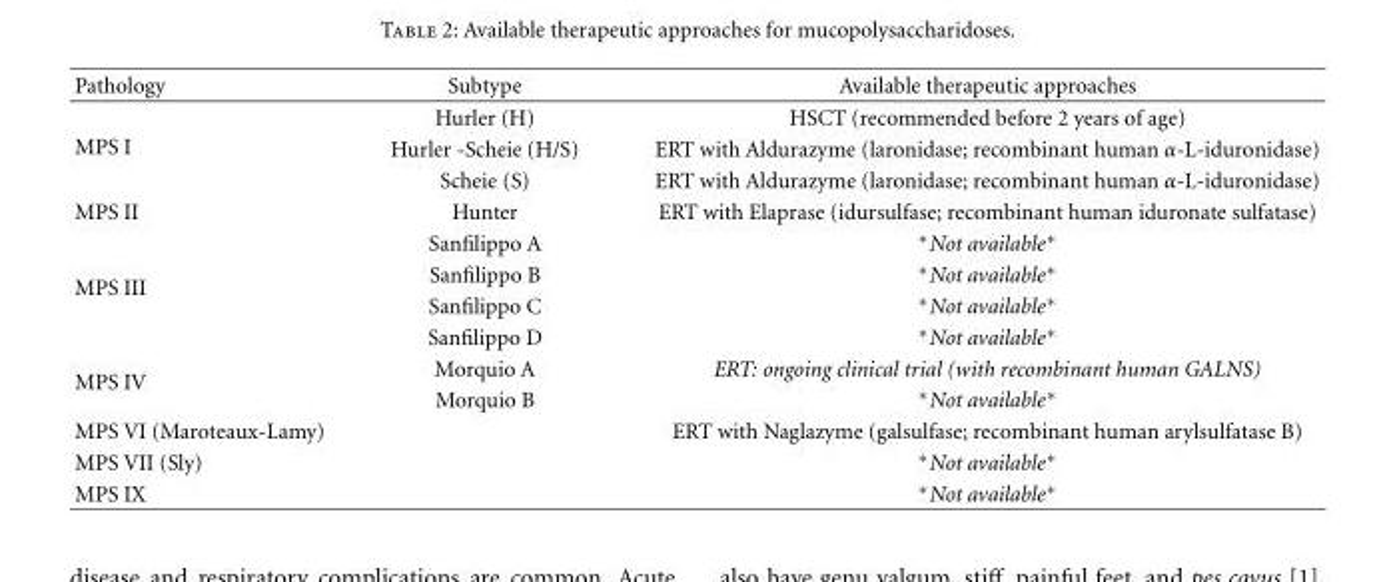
<table><thead><tr><td>Pathology</td><td>Subtype</td><td>Available therapeutic approaches</td></tr></thead><tbody><tr><td rowspan="3">MPS I</td><td>Hurler (H)</td><td>HSCT (recommended before 2 years of age)</td></tr><tr><td>Hurler -Scheie (H/S)</td><td>ERT with Aldurazyme (laronidase; recombinant human α-L-iduronidase)</td></tr><tr><td>Scheie (S)</td><td>ERT with Aldurazyme (laronidase; recombinant human α-L-iduronidase)</td></tr><tr><td>MPS II</td><td>Hunter</td><td>ERT with Elaprase (idursulfase; recombinant human iduronate sulfatase)</td></tr><tr><td rowspan="4">MPS III</td><td>Sanfilippo A</td><td>∗Not available∗</td></tr><tr><td>Sanfilippo B</td><td>∗Not available∗</td></tr><tr><td>Sanfilippo C</td><td>∗Not available∗</td></tr><tr><td>Sanfilippo D</td><td>∗Not available∗</td></tr><tr><td rowspan="2">MPS IV</td><td>Morquio A</td><td>ERT: ongoing clinical trial (with recombinant human GALNS)</td></tr><tr><td>Morquio B</td><td>∗Not available∗</td></tr><tr><td>MPS VI (Maroteaux-Lamy)</td><td></td><td>ERT with Naglazyme (galsulfase; recombinant human arylsulfatase B)</td></tr><tr><td>MPS VII (Sly)</td><td></td><td>∗Not available∗</td></tr><tr><td>MPS IX</td><td></td><td>∗Not available∗</td></tr></tbody></table>